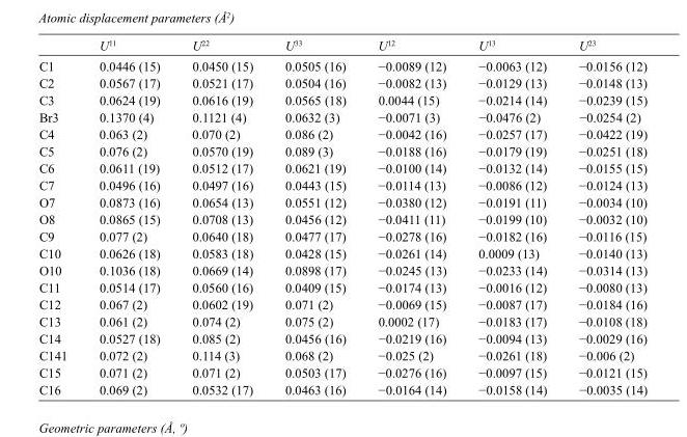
<table><thead><tr><td></td><td>U<sup>11</sup></td><td>U<sup>22</sup></td><td>U<sup>33</sup></td><td>U<sup>12</sup></td><td>U<sup>13</sup></td><td>U<sup>23</sup></td></tr></thead><tbody><tr><td>C1</td><td>0.0446 (15)</td><td>0.0450 (15)</td><td>0.0505 (16)</td><td>−0.0089 (12)</td><td>−0.0063 (12)</td><td>−0.0156 (12)</td></tr><tr><td>C2</td><td>0.0567 (17)</td><td>0.0521 (17)</td><td>0.0504 (16)</td><td>−0.0082 (13)</td><td>−0.0129 (13)</td><td>−0.0148 (13)</td></tr><tr><td>C3</td><td>0.0624 (19)</td><td>0.0616 (19)</td><td>0.0565 (18)</td><td>0.0044 (15)</td><td>−0.0214 (14)</td><td>−0.0239 (15)</td></tr><tr><td>Br3</td><td>0.1370 (4)</td><td>0.1121 (4)</td><td>0.0632 (3)</td><td>−0.0071 (3)</td><td>−0.0476 (2)</td><td>−0.0254 (2)</td></tr><tr><td>C4</td><td>0.063 (2)</td><td>0.070 (2)</td><td>0.086 (2)</td><td>−0.0042 (16)</td><td>−0.0257 (17)</td><td>−0.0422 (19)</td></tr><tr><td>C5</td><td>0.076 (2)</td><td>0.0570 (19)</td><td>0.089 (3)</td><td>−0.0188 (16)</td><td>−0.0179 (19)</td><td>−0.0251 (18)</td></tr><tr><td>C6</td><td>0.0611 (19)</td><td>0.0512 (17)</td><td>0.0621 (19)</td><td>−0.0100 (14)</td><td>−0.0132 (14)</td><td>−0.0155 (15)</td></tr><tr><td>C7</td><td>0.0496 (16)</td><td>0.0497 (16)</td><td>0.0443 (15)</td><td>−0.0114 (13)</td><td>−0.0086 (12)</td><td>−0.0124 (13)</td></tr><tr><td>O7</td><td>0.0873 (16)</td><td>0.0654 (13)</td><td>0.0551 (12)</td><td>−0.0380 (12)</td><td>−0.0191 (11)</td><td>−0.0034 (10)</td></tr><tr><td>O8</td><td>0.0865 (15)</td><td>0.0708 (13)</td><td>0.0456 (12)</td><td>−0.0411 (11)</td><td>−0.0199 (10)</td><td>−0.0032 (10)</td></tr><tr><td>C9</td><td>0.077 (2)</td><td>0.0640 (18)</td><td>0.0477 (17)</td><td>−0.0278 (16)</td><td>−0.0182 (16)</td><td>−0.0116 (15)</td></tr><tr><td>C10</td><td>0.0626 (18)</td><td>0.0583 (18)</td><td>0.0428 (15)</td><td>−0.0261 (14)</td><td>0.0009 (13)</td><td>−0.0140 (13)</td></tr><tr><td>O10</td><td>0.1036 (18)</td><td>0.0669 (14)</td><td>0.0898 (17)</td><td>−0.0245 (13)</td><td>−0.0233 (14)</td><td>−0.0314 (13)</td></tr><tr><td>C11</td><td>0.0514 (17)</td><td>0.0560 (16)</td><td>0.0409 (15)</td><td>−0.0174 (13)</td><td>−0.0016 (12)</td><td>−0.0080 (13)</td></tr><tr><td>C12</td><td>0.067 (2)</td><td>0.0602 (19)</td><td>0.071 (2)</td><td>−0.0069 (15)</td><td>−0.0087 (17)</td><td>−0.0184 (16)</td></tr><tr><td>C13</td><td>0.061 (2)</td><td>0.074 (2)</td><td>0.075 (2)</td><td>0.0002 (17)</td><td>−0.0183 (17)</td><td>−0.0108 (18)</td></tr><tr><td>C14</td><td>0.0527 (18)</td><td>0.085 (2)</td><td>0.0456 (16)</td><td>−0.0219 (16)</td><td>−0.0094 (13)</td><td>−0.0029 (16)</td></tr><tr><td>C141</td><td>0.072 (2)</td><td>0.114 (3)</td><td>0.068 (2)</td><td>−0.025 (2)</td><td>−0.0261 (18)</td><td>−0.006 (2)</td></tr><tr><td>C15</td><td>0.071 (2)</td><td>0.071 (2)</td><td>0.0503 (17)</td><td>−0.0276 (16)</td><td>−0.0097 (15)</td><td>−0.0121 (15)</td></tr><tr><td>C16</td><td>0.069 (2)</td><td>0.0532 (17)</td><td>0.0463 (16)</td><td>−0.0164 (14)</td><td>−0.0158 (14)</td><td>−0.0035 (14)</td></tr></tbody></table>